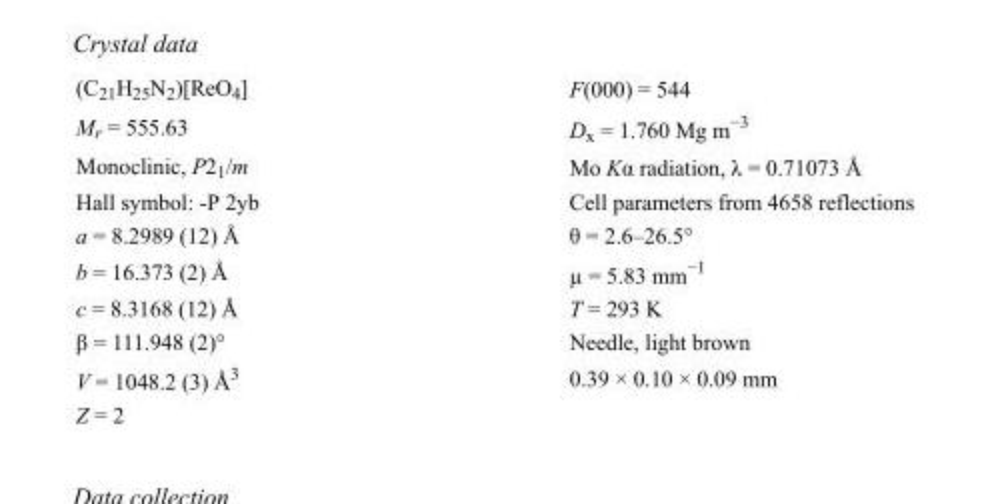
<table><tbody><tr><td>(C<sub>21</sub>H<sub>25</sub>N<sub>2</sub>)[ReO<sub>4</sub>]</td><td>F(000) = 544</td></tr><tr><td>M<sub>r</sub> = 555.63</td><td>D<sub>x</sub> = 1.760 Mg m<sup>−3</sup></td></tr><tr><td>Monoclinic, P2<sub>1</sub>/m</td><td>Mo Kα radiation, λ = 0.71073 Å</td></tr><tr><td>Hall symbol: -P 2yb</td><td>Cell parameters from 4658 reflections</td></tr><tr><td>a = 8.2989 (12) Å</td><td>θ = 2.6–26.5°</td></tr><tr><td>b = 16.373 (2) Å</td><td>µ = 5.83 mm<sup>−1</sup></td></tr><tr><td>c = 8.3168 (12) Å</td><td>T = 293 K</td></tr><tr><td>β = 111.948 (2)°</td><td>Needle, light brown</td></tr><tr><td>V = 1048.2 (3) Å<sup>3</sup></td><td>0.39 × 0.10 × 0.09 mm</td></tr><tr><td>Z = 2</td><td></td></tr></tbody></table>